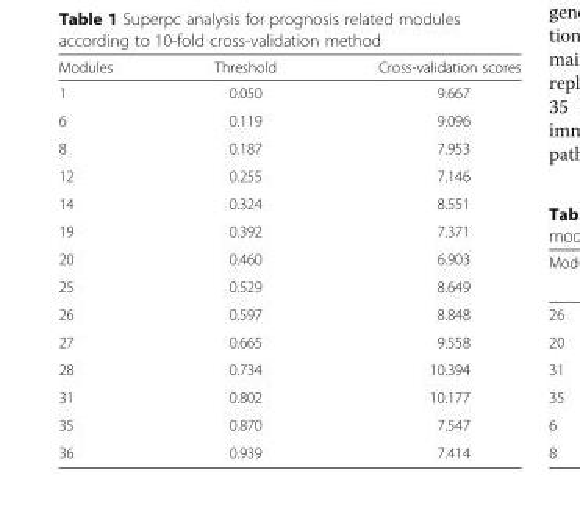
<table><thead><tr><td>Modules</td><td>Threshold</td><td>Cross-validation scores</td></tr></thead><tbody><tr><td>1</td><td>0.050</td><td>9.667</td></tr><tr><td>6</td><td>0.119</td><td>9.096</td></tr><tr><td>8</td><td>0.187</td><td>7.953</td></tr><tr><td>12</td><td>0.255</td><td>7.146</td></tr><tr><td>14</td><td>0.324</td><td>8.551</td></tr><tr><td>19</td><td>0.392</td><td>7.371</td></tr><tr><td>20</td><td>0.460</td><td>6.903</td></tr><tr><td>25</td><td>0.529</td><td>8.649</td></tr><tr><td>26</td><td>0.597</td><td>8.848</td></tr><tr><td>27</td><td>0.665</td><td>9.558</td></tr><tr><td>28</td><td>0.734</td><td>10.394</td></tr><tr><td>31</td><td>0.802</td><td>10.177</td></tr><tr><td>35</td><td>0.870</td><td>7.547</td></tr><tr><td>36</td><td>0.939</td><td>7.414</td></tr></tbody></table>